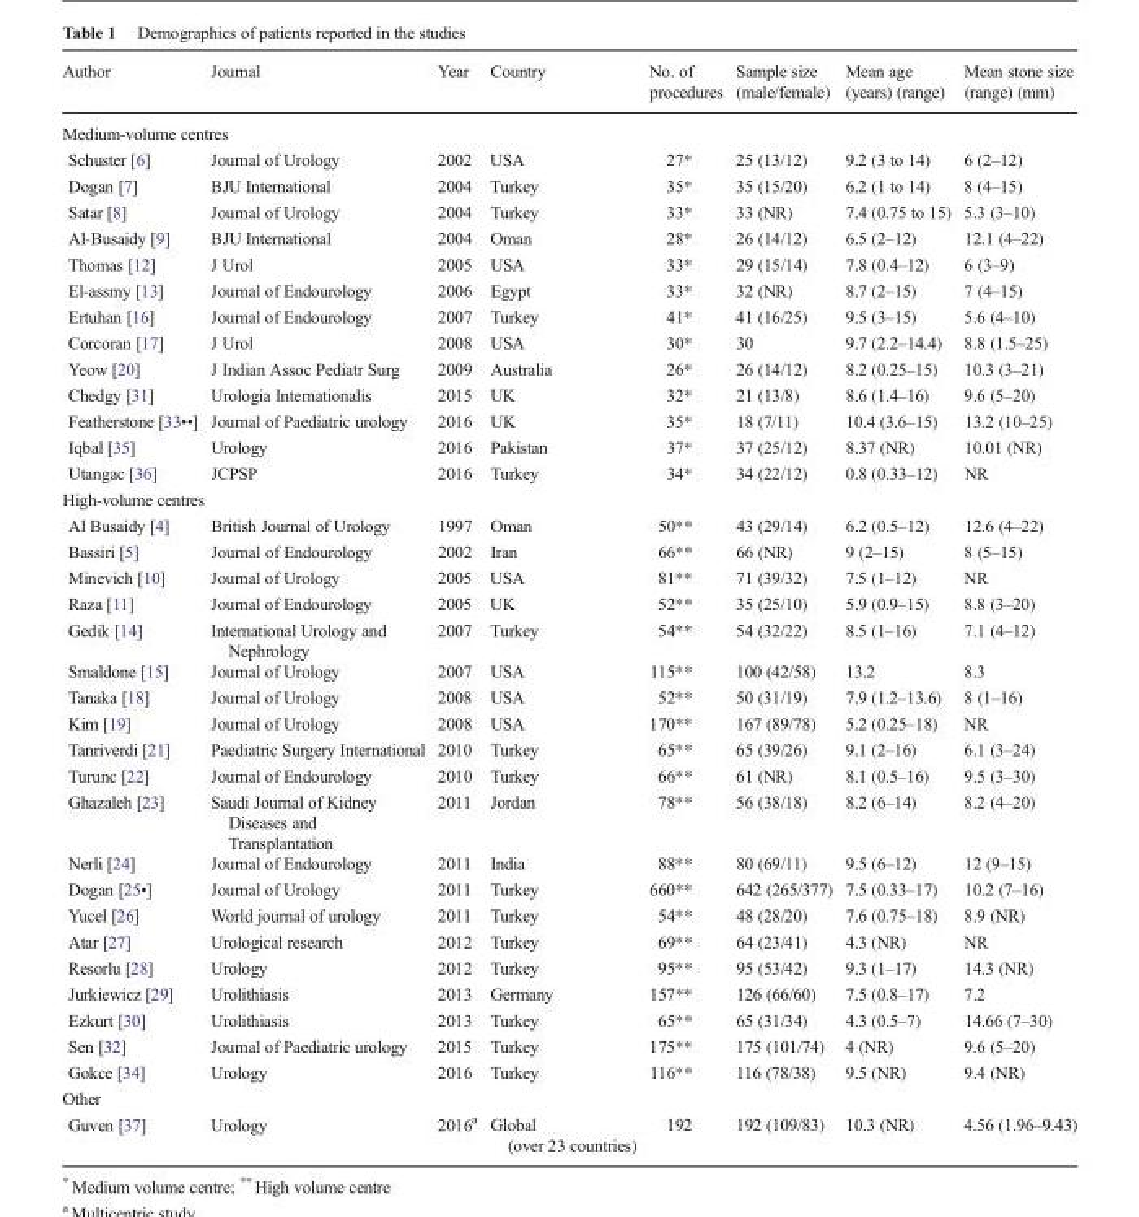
<table><thead><tr><td>Author</td><td>Journal</td><td>Year</td><td>Country</td><td>No. of procedures</td><td>Sample size (male/female)</td><td>Mean age (years) (range)</td><td>Mean stone size (range) (mm)</td></tr></thead><tbody><tr><td colspan="8">Medium-volume centres</td></tr><tr><td>Schuster [6]</td><td>Journal of Urology</td><td>2002</td><td>USA</td><td>27*</td><td>25 (13/12)</td><td>9.2 (3 to 14)</td><td>6 (2–12)</td></tr><tr><td>Dogan [7]</td><td>BJU International</td><td>2004</td><td>Turkey</td><td>35*</td><td>35 (15/20)</td><td>6.2 (1 to 14)</td><td>8 (4–15)</td></tr><tr><td>Satar [8]</td><td>Journal of Urology</td><td>2004</td><td>Turkey</td><td>33*</td><td>33 (NR)</td><td>7.4 (0.75 to 15)</td><td>5.3 (3–10)</td></tr><tr><td>Al-Busaidy [9]</td><td>BJU International</td><td>2004</td><td>Oman</td><td>28*</td><td>26 (14/12)</td><td>6.5 (2–12)</td><td>12.1 (4–22)</td></tr><tr><td>Thomas [12]</td><td>J Urol</td><td>2005</td><td>USA</td><td>33*</td><td>29 (15/14)</td><td>7.8 (0.4–12)</td><td>6 (3–9)</td></tr><tr><td>El-assmy [13]</td><td>Journal of Endourology</td><td>2006</td><td>Egypt</td><td>33*</td><td>32 (NR)</td><td>8.7 (2–15)</td><td>7 (4–15)</td></tr><tr><td>Ertuhan [16]</td><td>Journal of Endourology</td><td>2007</td><td>Turkey</td><td>41*</td><td>41 (16/25)</td><td>9.5 (3–15)</td><td>5.6 (4–10)</td></tr><tr><td>Corcoran [17]</td><td>J Urol</td><td>2008</td><td>USA</td><td>30*</td><td>30</td><td>9.7 (2.2–14.4)</td><td>8.8 (1.5–25)</td></tr><tr><td>Yeow [20]</td><td>J Indian Assoc Pediatr Surg</td><td>2009</td><td>Australia</td><td>26*</td><td>26 (14/12)</td><td>8.2 (0.25–15)</td><td>10.3 (3–21)</td></tr><tr><td>Chedgy [31]</td><td>Urologia Internationalis</td><td>2015</td><td>UK</td><td>32*</td><td>21 (13/8)</td><td>8.6 (1.4–16)</td><td>9.6 (5–20)</td></tr><tr><td>Featherstone [33••]</td><td>Journal of Paediatric urology</td><td>2016</td><td>UK</td><td>35*</td><td>18 (7/11)</td><td>10.4 (3.6–15)</td><td>13.2 (10–25)</td></tr><tr><td>Iqbal [35]</td><td>Urology</td><td>2016</td><td>Pakistan</td><td>37*</td><td>37 (25/12)</td><td>8.37 (NR)</td><td>10.01 (NR)</td></tr><tr><td>Utangac [36]</td><td>JCPSP</td><td>2016</td><td>Turkey</td><td>34*</td><td>34 (22/12)</td><td>0.8 (0.33–12)</td><td>NR</td></tr><tr><td colspan="8">High-volume centres</td></tr><tr><td>Al Busaidy [4]</td><td>British Journal of Urology</td><td>1997</td><td>Oman</td><td>50**</td><td>43 (29/14)</td><td>6.2 (0.5–12)</td><td>12.6 (4–22)</td></tr><tr><td>Bassiri [5]</td><td>Journal of Endourology</td><td>2002</td><td>Iran</td><td>66**</td><td>66 (NR)</td><td>9 (2–15)</td><td>8 (5–15)</td></tr><tr><td>Minevich [10]</td><td>Journal of Urology</td><td>2005</td><td>USA</td><td>81**</td><td>71 (39/32)</td><td>7.5 (1–12)</td><td>NR</td></tr><tr><td>Raza [11]</td><td>Journal of Endourology</td><td>2005</td><td>UK</td><td>52**</td><td>35 (25/10)</td><td>5.9 (0.9–15)</td><td>8.8 (3–20)</td></tr><tr><td>Gedik [14]</td><td>International Urology and Nephrology</td><td>2007</td><td>Turkey</td><td>54**</td><td>54 (32/22)</td><td>8.5 (1–16)</td><td>7.1 (4–12)</td></tr><tr><td>Smaldone [15]</td><td>Journal of Urology</td><td>2007</td><td>USA</td><td>115**</td><td>100 (42/58)</td><td>13.2</td><td>8.3</td></tr><tr><td>Tanaka [18]</td><td>Journal of Urology</td><td>2008</td><td>USA</td><td>52**</td><td>50 (31/19)</td><td>7.9 (1.2–13.6)</td><td>8 (1–16)</td></tr><tr><td>Kim [19]</td><td>Journal of Urology</td><td>2008</td><td>USA</td><td>170**</td><td>167 (89/78)</td><td>5.2 (0.25–18)</td><td>NR</td></tr><tr><td>Tanriverdi [21]</td><td>Paediatric Surgery International</td><td>2010</td><td>Turkey</td><td>65**</td><td>65 (39/26)</td><td>9.1 (2–16)</td><td>6.1 (3–24)</td></tr><tr><td>Turunc [22]</td><td>Journal of Endourology</td><td>2010</td><td>Turkey</td><td>66**</td><td>61 (NR)</td><td>8.1 (0.5–16)</td><td>9.5 (3–30)</td></tr><tr><td>Ghazaleh [23]</td><td>Saudi Journal of Kidney Diseases and Transplantation</td><td>2011</td><td>Jordan</td><td>78**</td><td>56 (38/18)</td><td>8.2 (6–14)</td><td>8.2 (4–20)</td></tr><tr><td>Nerli [24]</td><td>Journal of Endourology</td><td>2011</td><td>India</td><td>88**</td><td>80 (69/11)</td><td>9.5 (6–12)</td><td>12 (9–15)</td></tr><tr><td>Dogan [25•]</td><td>Journal of Urology</td><td>2011</td><td>Turkey</td><td>660**</td><td>642 (265/377)</td><td>7.5 (0.33–17)</td><td>10.2 (7–16)</td></tr><tr><td>Yucel [26]</td><td>World journal of urology</td><td>2011</td><td>Turkey</td><td>54**</td><td>48 (28/20)</td><td>7.6 (0.75–18)</td><td>8.9 (NR)</td></tr><tr><td>Atar [27]</td><td>Urological research</td><td>2012</td><td>Turkey</td><td>69**</td><td>64 (23/41)</td><td>4.3 (NR)</td><td>NR</td></tr><tr><td>Resorlu [28]</td><td>Urology</td><td>2012</td><td>Turkey</td><td>95**</td><td>95 (53/42)</td><td>9.3 (1–17)</td><td>14.3 (NR)</td></tr><tr><td>Jurkiewicz [29]</td><td>Urolithiasis</td><td>2013</td><td>Germany</td><td>157**</td><td>126 (66/60)</td><td>7.5 (0.8–17)</td><td>7.2</td></tr><tr><td>Ezkurt [30]</td><td>Urolithiasis</td><td>2013</td><td>Turkey</td><td>65**</td><td>65 (31/34)</td><td>4.3 (0.5–7)</td><td>14.66 (7–30)</td></tr><tr><td>Sen [32]</td><td>Journal of Paediatric urology</td><td>2015</td><td>Turkey</td><td>175**</td><td>175 (101/74)</td><td>4 (NR)</td><td>9.6 (5–20)</td></tr><tr><td>Gokce [34]</td><td>Urology</td><td>2016</td><td>Turkey</td><td>116**</td><td>116 (78/38)</td><td>9.5 (NR)</td><td>9.4 (NR)</td></tr><tr><td colspan="8">Other</td></tr><tr><td>Guven [37]</td><td>Urology</td><td>2016<sup>a</sup></td><td>Global (over 23 countries)</td><td>192</td><td>192 (109/83)</td><td>10.3 (NR)</td><td>4.56 (1.96–9.43)</td></tr></tbody></table>